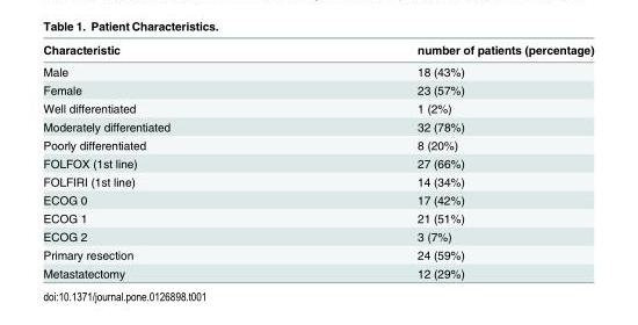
<table><thead><tr><td>Characteristic</td><td>number of patients (percentage)</td></tr></thead><tbody><tr><td>Male</td><td>18 (43%)</td></tr><tr><td>Female</td><td>23 (57%)</td></tr><tr><td>Well differentiated</td><td>1 (2%)</td></tr><tr><td>Moderately differentiated</td><td>32 (78%)</td></tr><tr><td>Poorly differentiated</td><td>8 (20%)</td></tr><tr><td>FOLFOX (1st line)</td><td>27 (66%)</td></tr><tr><td>FOLFIRI (1st line)</td><td>14 (34%)</td></tr><tr><td>ECOG 0</td><td>17 (42%)</td></tr><tr><td>ECOG 1</td><td>21 (51%)</td></tr><tr><td>ECOG 2</td><td>3 (7%)</td></tr><tr><td>Primary resection</td><td>24 (59%)</td></tr><tr><td>Metastatectomy</td><td>12 (29%)</td></tr></tbody></table>